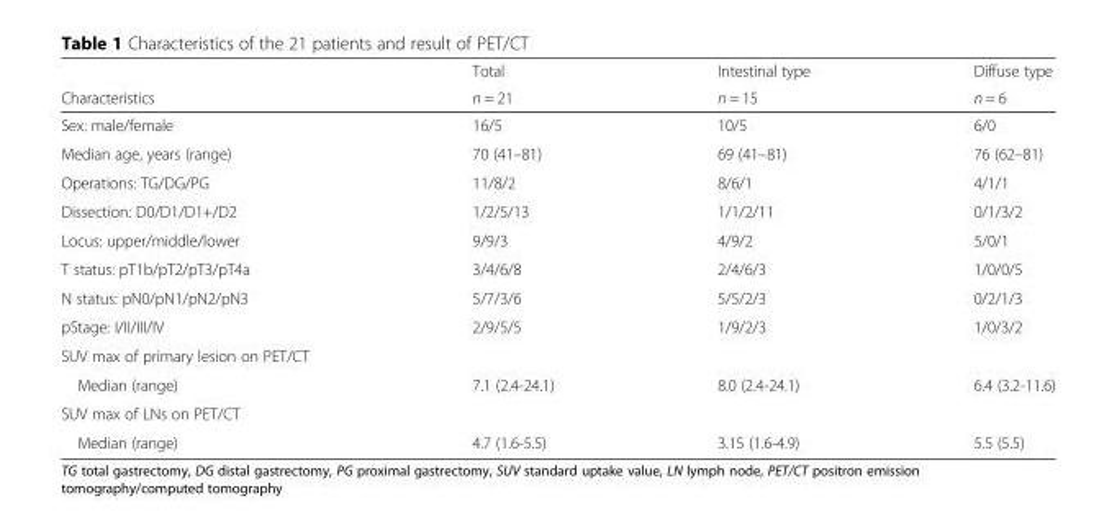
<table><thead><tr><td rowspan="2">Characteristics</td><td rowspan="2">Total n = 21</td><td rowspan="2">Intestinal type n = 15</td><td rowspan="2">Diffuse type n = 6</td></tr><tr></tr></thead><tbody><tr><td>Sex: male/female</td><td>16/5</td><td>10/5</td><td>6/0</td></tr><tr><td>Median age, years (range)</td><td>70 (41–81)</td><td>69 (41–81)</td><td>76 (62–81)</td></tr><tr><td>Operations: TG/DG/PG</td><td>11/8/2</td><td>8/6/1</td><td>4/1/1</td></tr><tr><td>Dissection: D0/D1/D1+/D2</td><td>1/2/5/13</td><td>1/1/2/11</td><td>0/1/3/2</td></tr><tr><td>Locus: upper/middle/lower</td><td>9/9/3</td><td>4/9/2</td><td>5/0/1</td></tr><tr><td>T status: pT1b/pT2/pT3/pT4a</td><td>3/4/6/8</td><td>2/4/6/3</td><td>1/0/0/5</td></tr><tr><td>N status: pN0/pN1/pN2/pN3</td><td>5/7/3/6</td><td>5/5/2/3</td><td>0/2/1/3</td></tr><tr><td>pStage: I/II/III/IV</td><td>2/9/5/5</td><td>1/9/2/3</td><td>1/0/3/2</td></tr><tr><td colspan="4">SUV max of primary lesion on PET/CT</td></tr><tr><td>Median (range)</td><td>7.1 (2.4-24.1)</td><td>8.0 (2.4-24.1)</td><td>6.4 (3.2-11.6)</td></tr><tr><td colspan="4">SUV max of LNs on PET/CT</td></tr><tr><td>Median (range)</td><td>4.7 (1.6-5.5)</td><td>3.15 (1.6-4.9)</td><td>5.5 (5.5)</td></tr></tbody></table>